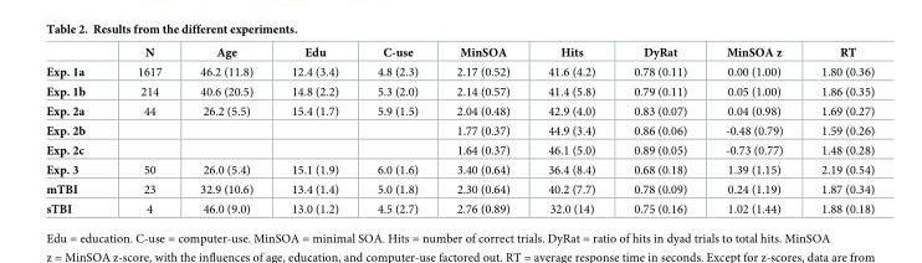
<table><thead><tr><td></td><td>N</td><td>Age</td><td>Edu</td><td>C-use</td><td>MinSOA</td><td>Hits</td><td>DyRat</td><td>MinSOA z</td><td>RT</td></tr></thead><tbody><tr><td>Exp. 1a</td><td>1617</td><td>46.2 (11.8)</td><td>12.4 (3.4)</td><td>4.8 (2.3)</td><td>2.17 (0.52)</td><td>41.6 (4.2)</td><td>0.78 (0.11)</td><td>0.00 (1.00)</td><td>1.80 (0.36)</td></tr><tr><td>Exp. 1b</td><td>214</td><td>40.6 (20.5)</td><td>14.8 (2.2)</td><td>5.3 (2.0)</td><td>2.14 (0.57)</td><td>41.4 (5.8)</td><td>0.79 (0.11)</td><td>0.05 (1.00)</td><td>1.86 (0.35)</td></tr><tr><td>Exp. 2a</td><td>44</td><td>26.2 (5.5)</td><td>15.4 (1.7)</td><td>5.9 (1.5)</td><td>2.04 (0.48)</td><td>42.9 (4.0)</td><td>0.83 (0.07)</td><td>0.04 (0.98)</td><td>1.69 (0.27)</td></tr><tr><td>Exp. 2b</td><td></td><td></td><td></td><td></td><td>1.77 (0.37)</td><td>44.9 (3.4)</td><td>0.86 (0.06)</td><td>-0.48 (0.79)</td><td>1.59 (0.26)</td></tr><tr><td>Exp. 2c</td><td></td><td></td><td></td><td></td><td>1.64 (0.37)</td><td>46.1 (5.0)</td><td>0.89 (0.05)</td><td>-0.73 (0.77)</td><td>1.48 (0.28)</td></tr><tr><td>Exp. 3</td><td>50</td><td>26.0 (5.4)</td><td>15.1 (1.9)</td><td>6.0 (1.6)</td><td>3.40 (0.64)</td><td>36.4 (8.4)</td><td>0.68 (0.18)</td><td>1.39 (1.15)</td><td>2.19 (0.54)</td></tr><tr><td>mTBI</td><td>23</td><td>32.9 (10.6)</td><td>13.4 (1.4)</td><td>5.0 (1.8)</td><td>2.30 (0.64)</td><td>40.2 (7.7)</td><td>0.78 (0.09)</td><td>0.24 (1.19)</td><td>1.87 (0.34)</td></tr><tr><td>sTBI</td><td>4</td><td>46.0 (9.0)</td><td>13.0 (1.2)</td><td>4.5 (2.7)</td><td>2.76 (0.89)</td><td>32.0 (14)</td><td>0.75 (0.16)</td><td>1.02 (1.44)</td><td>1.88 (0.18)</td></tr></tbody></table>